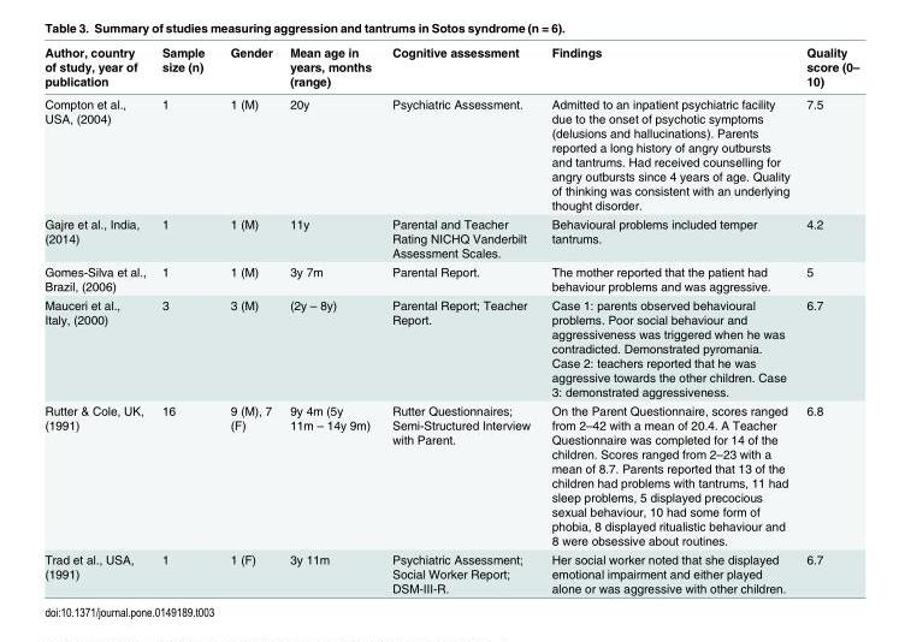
<table><thead><tr><td>Author, country of study, year of publication</td><td>Sample size (n)</td><td>Gender</td><td>Mean age in years, months (range)</td><td>Cognitive assessment</td><td>Findings</td><td>Quality score (0– 10)</td></tr></thead><tbody><tr><td>Compton et al., USA, (2004)</td><td>1</td><td>1 (M)</td><td>20y</td><td>Psychiatric Assessment.</td><td>Admitted to an inpatient psychiatric facility due to the onset of psychotic symptoms (delusions and hallucinations). Parents reported a long history of angry outbursts and tantrums. Had received counselling for angry outbursts since 4 years of age. Quality of thinking was consistent with an underlying thought disorder.</td><td>7.5</td></tr><tr><td>Gajre et al., India, (2014)</td><td>1</td><td>1 (M)</td><td>11y</td><td>Parental and Teacher Rating NICHQ Vanderbilt Assessment Scales.</td><td>Behavioural problems included temper tantrums.</td><td>4.2</td></tr><tr><td>Gomes-Silva et al., Brazil, (2006)</td><td>1</td><td>1 (M)</td><td>3y 7m</td><td>Parental Report.</td><td>The mother reported that the patient had behaviour problems and was aggressive.</td><td>5</td></tr><tr><td>Mauceri et al., Italy, (2000)</td><td>3</td><td>3 (M)</td><td>(2y – 8y)</td><td>Parental Report; Teacher Report.</td><td>Case 1: parents observed behavioural problems. Poor social behaviour and aggressiveness was triggered when he was contradicted. Demonstrated pyromania. Case 2: teachers reported that he was aggressive towards the other children. Case 3: demonstrated aggressiveness.</td><td>6.7</td></tr><tr><td>Rutter &amp; Cole, UK, (1991)</td><td>16</td><td>9 (M), 7 (F)</td><td>9y 4m (5y 11m – 14y 9m)</td><td>Rutter Questionnaires; Semi-Structured Interview with Parent.</td><td>On the Parent Questionnaire, scores ranged from 2–42 with a mean of 20.4. A Teacher Questionnaire was completed for 14 of the children. Scores ranged from 2–23 with a mean of 8.7. Parents reported that 13 of the children had problems with tantrums, 11 had sleep problems, 5 displayed precocious sexual behaviour, 10 had some form of phobia, 8 displayed ritualistic behaviour and 8 were obsessive about routines.</td><td>6.8</td></tr><tr><td>Trad et al., USA, (1991)</td><td>1</td><td>1 (F)</td><td>3y 11m</td><td>Psychiatric Assessment; Social Worker Report; DSM-III-R.</td><td>Her social worker noted that she displayed emotional impairment and either played alone or was aggressive with other children.</td><td>6.7</td></tr></tbody></table>